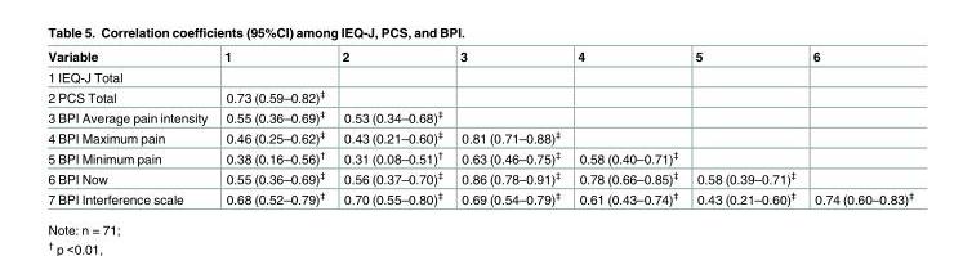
<table><thead><tr><td>Variable</td><td>1</td><td>2</td><td>3</td><td>4</td><td>5</td><td>6</td></tr></thead><tbody><tr><td colspan="7">1 IEQ-J Total</td></tr><tr><td>2 PCS Total</td><td>0.73 (0.59–0.82)<sup>‡</sup></td><td></td><td></td><td></td><td></td><td></td></tr><tr><td>3 BPI Average pain intensity</td><td>0.55 (0.36–0.69)<sup>‡</sup></td><td>0.53 (0.34–0.68)<sup>‡</sup></td><td></td><td></td><td></td><td></td></tr><tr><td>4 BPI Maximum pain</td><td>0.46 (0.25–0.62)<sup>‡</sup></td><td>0.43 (0.21–0.60)<sup>‡</sup></td><td>0.81 (0.71–0.88)<sup>‡</sup></td><td></td><td></td><td></td></tr><tr><td>5 BPI Minimum pain</td><td>0.38 (0.16–0.56)<sup>†</sup></td><td>0.31 (0.08–0.51)<sup>†</sup></td><td>0.63 (0.46–0.75)<sup>‡</sup></td><td>0.58 (0.40–0.71)<sup>‡</sup></td><td></td><td></td></tr><tr><td>6 BPI Now</td><td>0.55 (0.36–0.69)<sup>‡</sup></td><td>0.56 (0.37–0.70)<sup>‡</sup></td><td>0.86 (0.78–0.91)<sup>‡</sup></td><td>0.78 (0.66–0.85)<sup>‡</sup></td><td>0.58 (0.39–0.71)<sup>‡</sup></td><td></td></tr><tr><td>7 BPI Interference scale</td><td>0.68 (0.52–0.79)<sup>‡</sup></td><td>0.70 (0.55–0.80)<sup>‡</sup></td><td>0.69 (0.54–0.79)<sup>‡</sup></td><td>0.61 (0.43–0.74)<sup>‡</sup></td><td>0.43 (0.21–0.60)<sup>‡</sup></td><td>0.74 (0.60–0.83)<sup>‡</sup></td></tr></tbody></table>